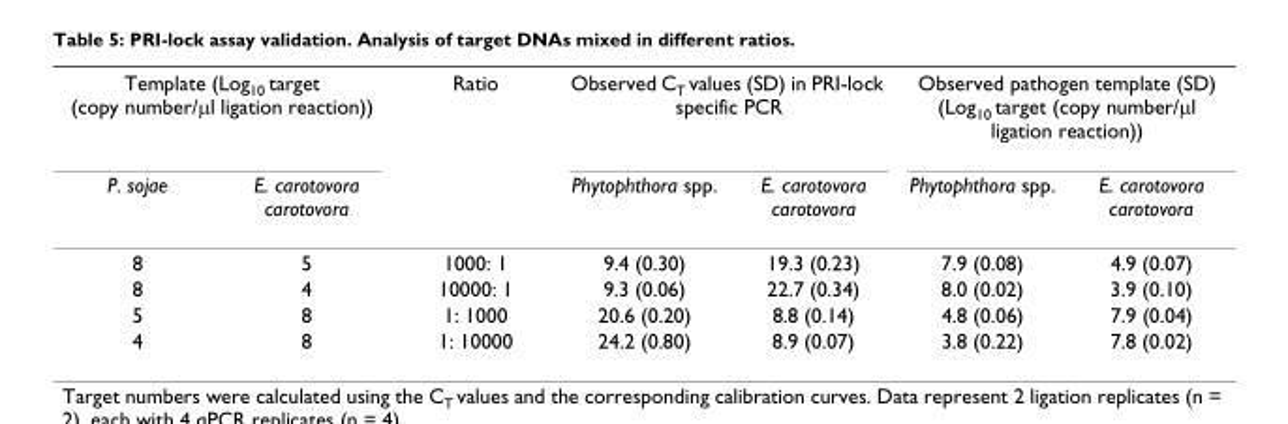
<table><thead><tr><td colspan="2">Template (Log<sub>10</sub> target (copy number/μl ligation reaction))</td><td rowspan="2">Ratio</td><td colspan="2">Observed C<sub>T</sub> values (SD) in PRI-lock specific PCR</td><td colspan="2">Observed pathogen template (SD) (Log<sub>10</sub> target (copy number/μl ligation reaction))</td></tr><tr><td>P. sojae</td><td>E. carotovora carotovora</td><td>Phytophthora spp.</td><td>E. carotovora carotovora</td><td>Phytophthora spp.</td><td>E. carotovora carotovora</td></tr></thead><tbody><tr><td>8</td><td>5</td><td>1000: 1</td><td>9.4 (0.30)</td><td>19.3 (0.23)</td><td>7.9 (0.08)</td><td>4.9 (0.07)</td></tr><tr><td>8</td><td>4</td><td>10000: 1</td><td>9.3 (0.06)</td><td>22.7 (0.34)</td><td>8.0 (0.02)</td><td>3.9 (0.10)</td></tr><tr><td>5</td><td>8</td><td>1: 1000</td><td>20.6 (0.20)</td><td>8.8 (0.14)</td><td>4.8 (0.06)</td><td>7.9 (0.04)</td></tr><tr><td>4</td><td>8</td><td>1: 10000</td><td>24.2 (0.80)</td><td>8.9 (0.07)</td><td>3.8 (0.22)</td><td>7.8 (0.02)</td></tr></tbody></table>